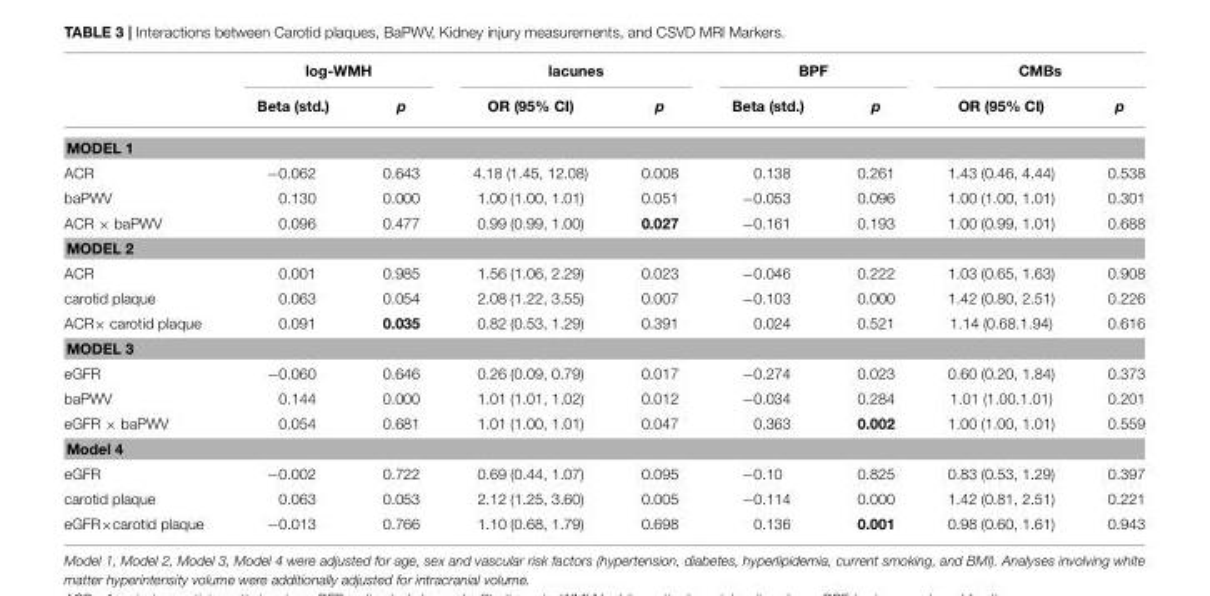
<table><thead><tr><td rowspan="2"></td><td colspan="2">log-WMH</td><td colspan="2">lacunes</td><td colspan="2">BPF</td><td colspan="2">CMBs</td></tr><tr><td>Beta (std.)</td><td>p</td><td>OR (95% CI)</td><td>p</td><td>Beta (std.)</td><td>p</td><td>OR (95% CI)</td><td>p</td></tr></thead><tbody><tr><td colspan="9">MODEL 1</td></tr><tr><td>ACR</td><td>−0.062</td><td>0.643</td><td>4.18 (1.45, 12.08)</td><td>0.008</td><td>0.138</td><td>0.261</td><td>1.43 (0.46, 4.44)</td><td>0.538</td></tr><tr><td>baPWV</td><td>0.130</td><td>0.000</td><td>1.00 (1.00, 1.01)</td><td>0.051</td><td>−0.053</td><td>0.096</td><td>1.00 (1.00, 1.01)</td><td>0.301</td></tr><tr><td>ACR × baPWV</td><td>0.096</td><td>0.477</td><td>0.99 (0.99, 1.00)</td><td>0.027</td><td>−0.161</td><td>0.193</td><td>1.00 (0.99, 1.01)</td><td>0.688</td></tr><tr><td colspan="9">MODEL 2</td></tr><tr><td>ACR</td><td>0.001</td><td>0.985</td><td>1.56 (1.06, 2.29)</td><td>0.023</td><td>−0.046</td><td>0.222</td><td>1.03 (0.65, 1.63)</td><td>0.908</td></tr><tr><td>carotid plaque</td><td>0.063</td><td>0.054</td><td>2.08 (1.22, 3.55)</td><td>0.007</td><td>−0.103</td><td>0.000</td><td>1.42 (0.80, 2.51)</td><td>0.226</td></tr><tr><td>ACR× carotid plaque</td><td>0.091</td><td>0.035</td><td>0.82 (0.53, 1.29)</td><td>0.391</td><td>0.024</td><td>0.521</td><td>1.14 (0.68.1.94)</td><td>0.616</td></tr><tr><td colspan="9">MODEL 3</td></tr><tr><td>eGFR</td><td>−0.060</td><td>0.646</td><td>0.26 (0.09, 0.79)</td><td>0.017</td><td>−0.274</td><td>0.023</td><td>0.60 (0.20, 1.84)</td><td>0.373</td></tr><tr><td>baPWV</td><td>0.144</td><td>0.000</td><td>1.01 (1.01, 1.02)</td><td>0.012</td><td>−0.034</td><td>0.284</td><td>1.01 (1.00.1.01)</td><td>0.201</td></tr><tr><td>eGFR × baPWV</td><td>0.054</td><td>0.681</td><td>1.01 (1.00, 1.01)</td><td>0.047</td><td>0.363</td><td>0.002</td><td>1.00 (1.00, 1.01)</td><td>0.559</td></tr><tr><td colspan="9">Model 4</td></tr><tr><td>eGFR</td><td>−0.002</td><td>0.722</td><td>0.69 (0.44, 1.07)</td><td>0.095</td><td>−0.10</td><td>0.825</td><td>0.83 (0.53, 1.29)</td><td>0.397</td></tr><tr><td>carotid plaque</td><td>0.063</td><td>0.053</td><td>2.12 (1.25, 3.60)</td><td>0.005</td><td>−0.114</td><td>0.000</td><td>1.42 (0.81, 2.51)</td><td>0.221</td></tr><tr><td>eGFR×carotid plaque</td><td>−0.013</td><td>0.766</td><td>1.10 (0.68, 1.79)</td><td>0.698</td><td>0.136</td><td>0.001</td><td>0.98 (0.60, 1.61)</td><td>0.943</td></tr></tbody></table>